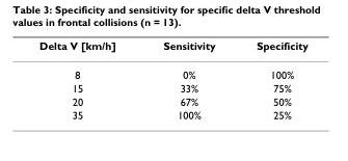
<table><thead><tr><td>Delta V [km/h]</td><td>Sensitivity</td><td>Specificity</td></tr></thead><tbody><tr><td>8</td><td>0%</td><td>100%</td></tr><tr><td>15</td><td>33%</td><td>75%</td></tr><tr><td>20</td><td>67%</td><td>50%</td></tr><tr><td>35</td><td>100%</td><td>25%</td></tr></tbody></table>